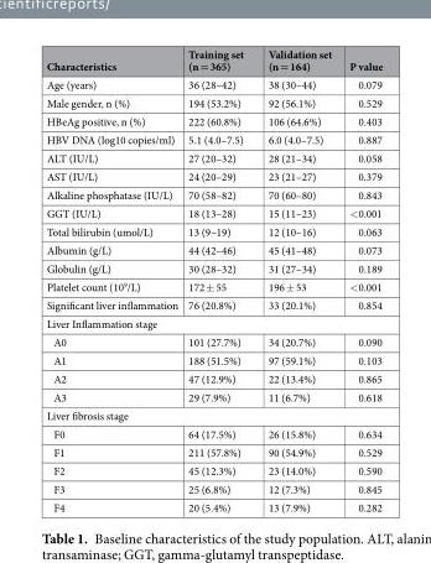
<table><thead><tr><td>Characteristics</td><td>Training set (n = 365)</td><td>Validation set (n = 164)</td><td>P value</td></tr></thead><tbody><tr><td>Age (years)</td><td>36 (28–42)</td><td>38 (30–44)</td><td>0.079</td></tr><tr><td>Male gender, n (%)</td><td>194 (53.2%)</td><td>92 (56.1%)</td><td>0.529</td></tr><tr><td>HBeAg positive, n (%)</td><td>222 (60.8%)</td><td>106 (64.6%)</td><td>0.403</td></tr><tr><td>HBV DNA (log10 copies/ml)</td><td>5.1 (4.0–7.5)</td><td>6.0 (4.0–7.5)</td><td>0.887</td></tr><tr><td>ALT (IU/L)</td><td>27 (20–32)</td><td>28 (21–34)</td><td>0.058</td></tr><tr><td>AST (IU/L)</td><td>24 (20–29)</td><td>23 (21–27)</td><td>0.379</td></tr><tr><td>Alkaline phosphatase (IU/L)</td><td>70 (58–82)</td><td>70 (60–80)</td><td>0.843</td></tr><tr><td>GGT (IU/L)</td><td>18 (13–28)</td><td>15 (11–23)</td><td>&lt;0.001</td></tr><tr><td>Total bilirubin (umol/L)</td><td>13 (9–19)</td><td>12 (10–16)</td><td>0.063</td></tr><tr><td>Albumin (g/L)</td><td>44 (42–46)</td><td>45 (41–48)</td><td>0.073</td></tr><tr><td>Globulin (g/L)</td><td>30 (28–32)</td><td>31 (27–34)</td><td>0.189</td></tr><tr><td>Platelet count (10<sup>9</sup>/L)</td><td>172 ± 55</td><td>196 ± 53</td><td>&lt;0.001</td></tr><tr><td>Significant liver inflammation</td><td>76 (20.8%)</td><td>33 (20.1%)</td><td>0.854</td></tr><tr><td colspan="4">Liver Inflammation stage</td></tr><tr><td>A0</td><td>101 (27.7%)</td><td>34 (20.7%)</td><td>0.090</td></tr><tr><td>A1</td><td>188 (51.5%)</td><td>97 (59.1%)</td><td>0.103</td></tr><tr><td>A2</td><td>47 (12.9%)</td><td>22 (13.4%)</td><td>0.865</td></tr><tr><td>A3</td><td>29 (7.9%)</td><td>11 (6.7%)</td><td>0.618</td></tr><tr><td colspan="4">Liver fibrosis stage</td></tr><tr><td>F0</td><td>64 (17.5%)</td><td>26 (15.8%)</td><td>0.634</td></tr><tr><td>F1</td><td>211 (57.8%)</td><td>90 (54.9%)</td><td>0.529</td></tr><tr><td>F2</td><td>45 (12.3%)</td><td>23 (14.0%)</td><td>0.590</td></tr><tr><td>F3</td><td>25 (6.8%)</td><td>12 (7.3%)</td><td>0.845</td></tr><tr><td>F4</td><td>20 (5.4%)</td><td>13 (7.9%)</td><td>0.282</td></tr></tbody></table>